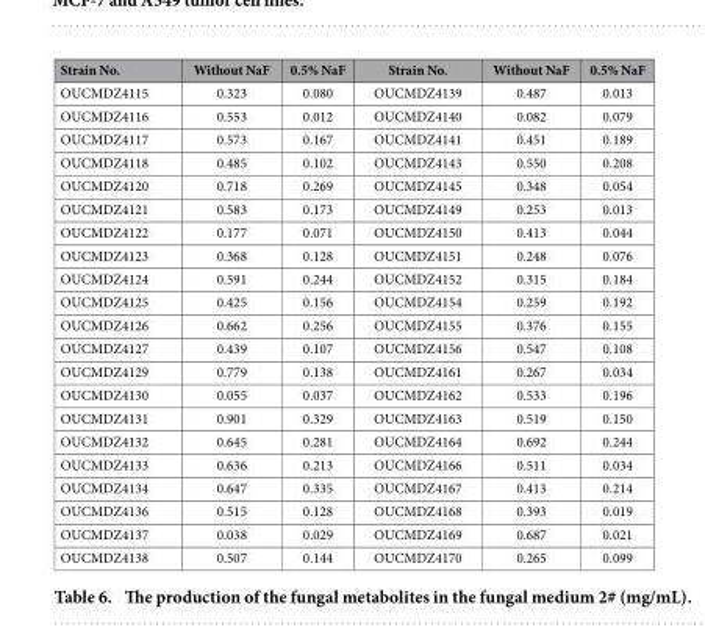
<table><thead><tr><td>Strain No.</td><td>Without NaF</td><td>0.5% NaF</td><td>Strain No.</td><td>Without NaF</td><td>0.5% NaF</td></tr></thead><tbody><tr><td>OUCMDZ4115</td><td>0.323</td><td>0.080</td><td>OUCMDZ4139</td><td>0.487</td><td>0.013</td></tr><tr><td>OUCMDZ4116</td><td>0.553</td><td>0.012</td><td>OUCMDZ4140</td><td>0.082</td><td>0.079</td></tr><tr><td>OUCMDZ4117</td><td>0.573</td><td>0.167</td><td>OUCMDZ4141</td><td>0.451</td><td>0.189</td></tr><tr><td>OUCMDZ4118</td><td>0.485</td><td>0.102</td><td>OUCMDZ4143</td><td>0.550</td><td>0.208</td></tr><tr><td>OUCMDZ4120</td><td>0.718</td><td>0.269</td><td>OUCMDZ4145</td><td>0.348</td><td>0.054</td></tr><tr><td>OUCMDZ4121</td><td>0.583</td><td>0.173</td><td>OUCMDZ4149</td><td>0.253</td><td>0.013</td></tr><tr><td>OUCMDZ4122</td><td>0.177</td><td>0.071</td><td>OUCMDZ4150</td><td>0.413</td><td>0.044</td></tr><tr><td>OUCMDZ4123</td><td>0.368</td><td>0.128</td><td>OUCMDZ4151</td><td>0.248</td><td>0.076</td></tr><tr><td>OUCMDZ4124</td><td>0.591</td><td>0.244</td><td>OUCMDZ4152</td><td>0.315</td><td>0.184</td></tr><tr><td>OUCMDZ4125</td><td>0.425</td><td>0.156</td><td>OUCMDZ4154</td><td>0.259</td><td>0.192</td></tr><tr><td>OUCMDZ4126</td><td>0.662</td><td>0.256</td><td>OUCMDZ4155</td><td>0.376</td><td>0.155</td></tr><tr><td>OUCMDZ4127</td><td>0.439</td><td>0.107</td><td>OUCMDZ4156</td><td>0.547</td><td>0.108</td></tr><tr><td>OUCMDZ4129</td><td>0.779</td><td>0.138</td><td>OUCMDZ4161</td><td>0.267</td><td>0.034</td></tr><tr><td>OUCMDZ4130</td><td>0.055</td><td>0.037</td><td>OUCMDZ4162</td><td>0.533</td><td>0.196</td></tr><tr><td>OUCMDZ4131</td><td>0.901</td><td>0.329</td><td>OUCMDZ4163</td><td>0.519</td><td>0.150</td></tr><tr><td>OUCMDZ4132</td><td>0.645</td><td>0.281</td><td>OUCMDZ4164</td><td>0.692</td><td>0.244</td></tr><tr><td>OUCMDZ4133</td><td>0.636</td><td>0.213</td><td>OUCMDZ4166</td><td>0.511</td><td>0.034</td></tr><tr><td>OUCMDZ4134</td><td>0.647</td><td>0.335</td><td>OUCMDZ4167</td><td>0.413</td><td>0.214</td></tr><tr><td>OUCMDZ4136</td><td>0.515</td><td>0.128</td><td>OUCMDZ4168</td><td>0.393</td><td>0.019</td></tr><tr><td>OUCMDZ4137</td><td>0.038</td><td>0.029</td><td>OUCMDZ4169</td><td>0.687</td><td>0.021</td></tr><tr><td>OUCMDZ4138</td><td>0.507</td><td>0.144</td><td>OUCMDZ4170</td><td>0.265</td><td>0.099</td></tr></tbody></table>